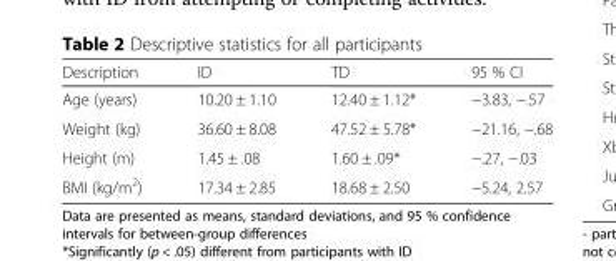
<table><thead><tr><td>Description</td><td>ID</td><td>TD</td><td>95 % CI</td></tr></thead><tbody><tr><td>Age (years)</td><td>10.20 ± 1.10</td><td>12.40 ± 1.12*</td><td>−3.83, −.57</td></tr><tr><td>Weight (kg)</td><td>36.60 ± 8.08</td><td>47.52 ± 5.78*</td><td>−21.16, −.68</td></tr><tr><td>Height (m)</td><td>1.45 ± .08</td><td>1.60 ± .09*</td><td>−.27, −.03</td></tr><tr><td>BMI (kg/m<sup>2</sup>)</td><td>17.34 ± 2.85</td><td>18.68 ± 2.50</td><td>−5.24, 2.57</td></tr></tbody></table>